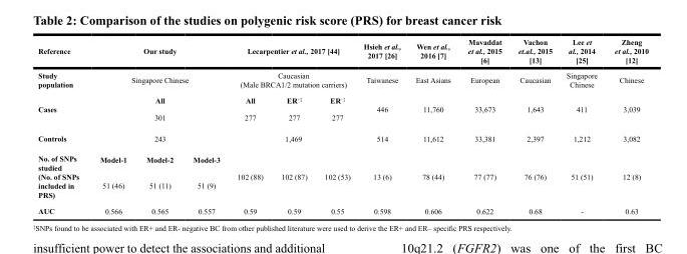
<table><thead><tr><td>Reference</td><td colspan="3">Our study</td><td colspan="3">Lecarpentier et al., 2017 [44]</td><td>Hsieh et al., 2017 [26]</td><td>Wen et al., 2016 [7]</td><td>Mavaddat et al., 2015 [6]</td><td>Vachon et.al., 2015 [13]</td><td>Lee et al., 2014 [25]</td><td>Zheng et al., 2010 [12]</td></tr></thead><tbody><tr><td>Study population</td><td colspan="3">Singapore Chinese</td><td colspan="3">Caucasian (Male BRCA1/2 mutation carriers)</td><td>Taiwanese</td><td>East Asians</td><td>European</td><td>Caucasian</td><td>Singapore Chinese</td><td>Chinese</td></tr><tr><td rowspan="2">Cases</td><td colspan="3">All</td><td>All</td><td>ER<sup>+‡</sup></td><td>ER<sup>–‡</sup></td><td rowspan="2">446</td><td rowspan="2">11,760</td><td rowspan="2">33,673</td><td rowspan="2">1,643</td><td rowspan="2">411</td><td rowspan="2">3,039</td></tr><tr><td colspan="3">301</td><td>277</td><td>277</td><td>277</td></tr><tr><td>Controls</td><td colspan="3">243</td><td colspan="3">1,469</td><td>514</td><td>11,612</td><td>33,381</td><td>2,397</td><td>1,212</td><td>3,082</td></tr><tr><td rowspan="2">No. of SNPs studied (No. of SNPs included in PRS)</td><td>Model-1</td><td>Model-2</td><td>Model-3</td><td rowspan="2">102 (88)</td><td rowspan="2">102 (87)</td><td rowspan="2">102 (53)</td><td rowspan="2">13 (6)</td><td rowspan="2">78 (44)</td><td rowspan="2">77 (77)</td><td rowspan="2">76 (76)</td><td rowspan="2">51 (51)</td><td rowspan="2">12 (8)</td></tr><tr><td>51 (46)</td><td>51 (11)</td><td>51 (9)</td></tr><tr><td>AUC</td><td>0.566</td><td>0.565</td><td>0.557</td><td>0.59</td><td>0.59</td><td>0.55</td><td>0.598</td><td>0.606</td><td>0.622</td><td>0.68</td><td>-</td><td>0.63</td></tr></tbody></table>